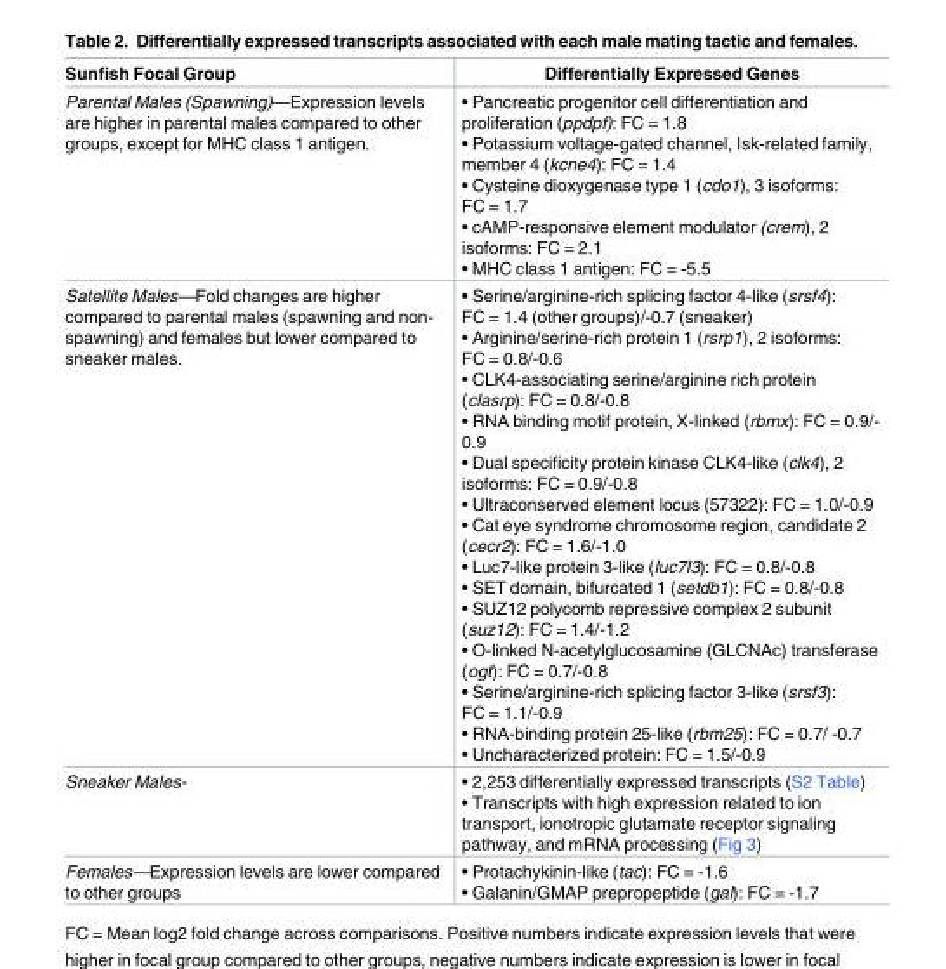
<table><thead><tr><td>Sunfish Focal Group</td><td>Differentially Expressed Genes</td></tr></thead><tbody><tr><td>Parental Males (Spawning)—Expression levels are higher in parental males compared to other groups, except for MHC class 1 antigen.</td><td>• Pancreatic progenitor cell differentiation and proliferation (ppdpf): FC = 1.8 • Potassium voltage-gated channel, Isk-related family, member 4 (kcne4): FC = 1.4 • Cysteine dioxygenase type 1 (cdo1), 3 isoforms: FC = 1.7 • cAMP-responsive element modulator (crem), 2 isoforms: FC = 2.1 • MHC class 1 antigen: FC = -5.5</td></tr><tr><td>Satellite Males—Fold changes are higher compared to parental males (spawning and non- spawning) and females but lower compared to sneaker males.</td><td>• Serine/arginine-rich splicing factor 4-like (srsf4): FC = 1.4 (other groups)/-0.7 (sneaker) • Arginine/serine-rich protein 1 (rsrp1), 2 isoforms: FC = 0.8/-0.6 • CLK4-associating serine/arginine rich protein (clasrp): FC = 0.8/-0.8 • RNA binding motif protein, X-linked (rbmx): FC = 0.9/- 0.9 • Dual specificity protein kinase CLK4-like (clk4), 2 isoforms: FC = 0.9/-0.8 • Ultraconserved element locus (57322): FC = 1.0/-0.9 • Cat eye syndrome chromosome region, candidate 2 (cecr2): FC = 1.6/-1.0 • Luc7-like protein 3-like (luc7l3): FC = 0.8/-0.8 • SET domain, bifurcated 1 (setdb1): FC = 0.8/-0.8 • SUZ12 polycomb repressive complex 2 subunit (suz12): FC = 1.4/-1.2 • O-linked N-acetylglucosamine (GLCNAc) transferase (ogt): FC = 0.7/-0.8 • Serine/arginine-rich splicing factor 3-like (srsf3): FC = 1.1/-0.9 • RNA-binding protein 25-like (rbm25): FC = 0.7/ -0.7 • Uncharacterized protein: FC = 1.5/-0.9</td></tr><tr><td>Sneaker Males-</td><td>• 2,253 differentially expressed transcripts (S2 Table) • Transcripts with high expression related to ion transport, ionotropic glutamate receptor signaling pathway, and mRNA processing (Fig 3)</td></tr><tr><td>Females—Expression levels are lower compared to other groups</td><td>• Protachykinin-like (tac): FC = -1.6 • Galanin/GMAP prepropeptide (gal): FC = -1.7</td></tr></tbody></table>